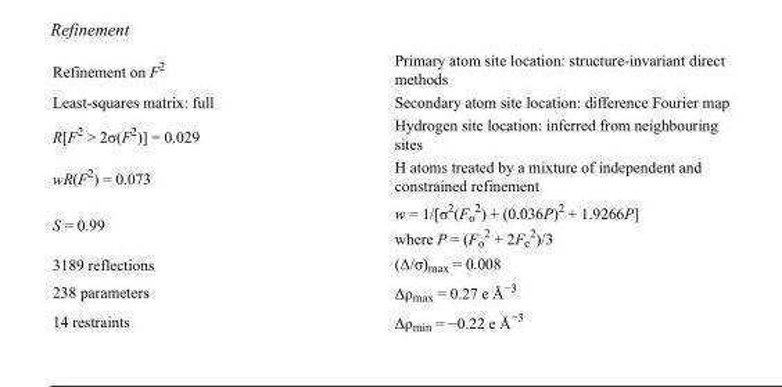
<table><tbody><tr><td>Refinement on F<sup>2</sup></td><td>Primary atom site location: structure-invariant direct methods</td></tr><tr><td>Least-squares matrix: full</td><td>Secondary atom site location: difference Fourier map</td></tr><tr><td>R[F<sup>2</sup> &gt; 2σ(F<sup>2</sup>)] = 0.029</td><td>Hydrogen site location: inferred from neighbouring sites</td></tr><tr><td>wR(F<sup>2</sup>) = 0.073</td><td>H atoms treated by a mixture of independent and constrained refinement</td></tr><tr><td>S = 0.99</td><td>w = 1/[σ<sup>2</sup>(F<sub>o</sub> <sup>2</sup>) + (0.036P)<sup>2</sup> + 1.9266P] where P = (F<sub>o</sub> <sup>2</sup> + 2F<sub>c</sub> <sup>2</sup>)/3</td></tr><tr><td>3189 reflections</td><td>(Δ/σ)<sub>max</sub> = 0.008</td></tr><tr><td>238 parameters</td><td>Δρ<sub>max</sub> = 0.27 e Å<sup>−3</sup></td></tr><tr><td>14 restraints</td><td>Δρ<sub>min</sub> = −0.22 e Å<sup>−3</sup></td></tr></tbody></table>